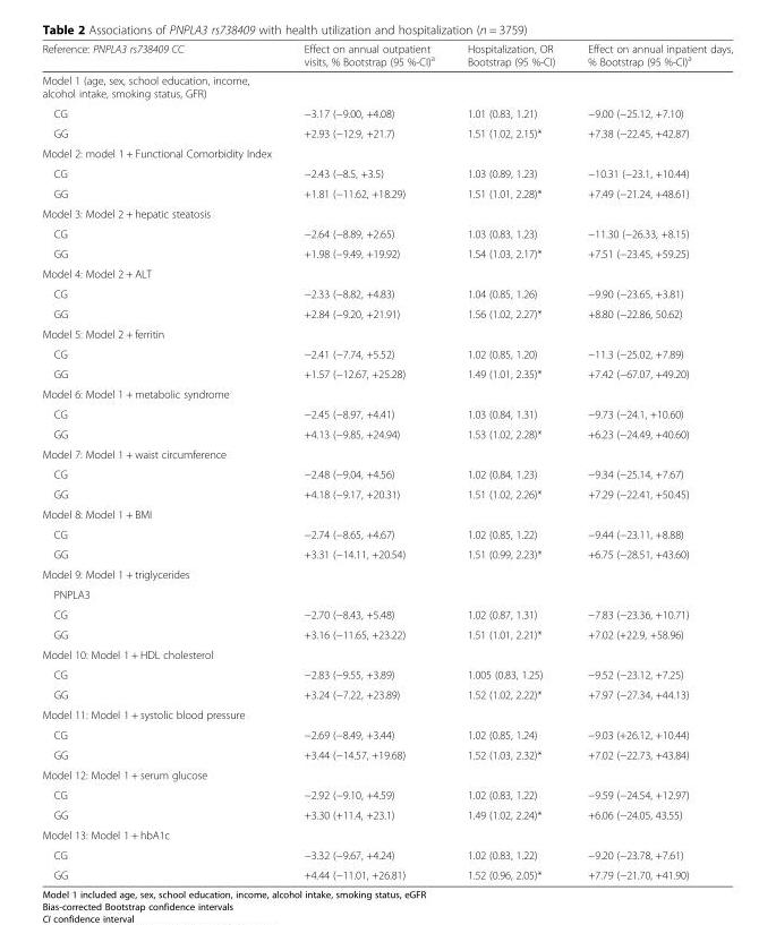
<table><thead><tr><td>Reference: PNPLA3 rs738409 CC</td><td>Effect on annual outpatient visits, % Bootstrap (95 %-CI)<sup>a</sup></td><td>Hospitalization, OR Bootstrap (95 %-CI)</td><td>Effect on annual inpatient days, % Bootstrap (95 %-CI)<sup>a</sup></td></tr></thead><tbody><tr><td colspan="4">Model 1 (age, sex, school education, income, alcohol intake, smoking status, GFR)</td></tr><tr><td>CG</td><td>−3.17 (−9.00, +4.08)</td><td>1.01 (0.83, 1.21)</td><td>−9.00 (−25.12, +7.10)</td></tr><tr><td>GG</td><td>+2.93 (−12.9, +21.7)</td><td>1.51 (1.02, 2.15)*</td><td>+7.38 (−22.45, +42.87)</td></tr><tr><td colspan="4">Model 2: model 1 + Functional Comorbidity Index</td></tr><tr><td>CG</td><td>−2.43 (−8.5, +3.5)</td><td>1.03 (0.89, 1.23)</td><td>−10.31 (−23.1, +10.44)</td></tr><tr><td>GG</td><td>+1.81 (−11.62, +18.29)</td><td>1.51 (1.01, 2.28)*</td><td>+7.49 (−21.24, +48.61)</td></tr><tr><td colspan="4">Model 3: Model 2 + hepatic steatosis</td></tr><tr><td>CG</td><td>−2.64 (−8.89, +2.65)</td><td>1.03 (0.83, 1.23)</td><td>−11.30 (−26.33, +8.15)</td></tr><tr><td>GG</td><td>+1.98 (−9.49, +19.92)</td><td>1.54 (1.03, 2.17)*</td><td>+7.51 (−23.45, +59.25)</td></tr><tr><td colspan="4">Model 4: Model 2 + ALT</td></tr><tr><td>CG</td><td>−2.33 (−8.82, +4.83)</td><td>1.04 (0.85, 1.26)</td><td>−9.90 (−23.65, +3.81)</td></tr><tr><td>GG</td><td>+2.84 (−9.20, +21.91)</td><td>1.56 (1.02, 2.27)*</td><td>+8.80 (−22.86, 50.62)</td></tr><tr><td colspan="4">Model 5: Model 2 + ferritin</td></tr><tr><td>CG</td><td>−2.41 (−7.74, +5.52)</td><td>1.02 (0.85, 1.20)</td><td>−11.3 (−25.02, +7.89)</td></tr><tr><td>GG</td><td>+1.57 (−12.67, +25.28)</td><td>1.49 (1.01, 2.35)*</td><td>+7.42 (−67.07, +49.20)</td></tr><tr><td colspan="4">Model 6: Model 1 + metabolic syndrome</td></tr><tr><td>CG</td><td>−2.45 (−8.97, +4.41)</td><td>1.03 (0.84, 1.31)</td><td>−9.73 (−24.1, +10.60)</td></tr><tr><td>GG</td><td>+4.13 (−9.85, +24.94)</td><td>1.53 (1.02, 2.28)*</td><td>+6.23 (−24.49, +40.60)</td></tr><tr><td colspan="4">Model 7: Model 1 + waist circumference</td></tr><tr><td>CG</td><td>−2.48 (−9.04, +4.56)</td><td>1.02 (0.84, 1.23)</td><td>−9.34 (−25.14, +7.67)</td></tr><tr><td>GG</td><td>+4.18 (−9.17, +20.31)</td><td>1.51 (1.02, 2.26)*</td><td>+7.29 (−22.41, +50.45)</td></tr><tr><td colspan="4">Model 8: Model 1 + BMI</td></tr><tr><td>CG</td><td>−2.74 (−8.65, +4.67)</td><td>1.02 (0.85, 1.22)</td><td>−9.44 (−23.11, +8.88)</td></tr><tr><td>GG</td><td>+3.31 (−14.11, +20.54)</td><td>1.51 (0.99, 2.23)*</td><td>+6.75 (−28.51, +43.60)</td></tr><tr><td colspan="4">Model 9: Model 1 + triglycerides</td></tr><tr><td colspan="4">PNPLA3</td></tr><tr><td>CG</td><td>−2.70 (−8.43, +5.48)</td><td>1.02 (0.87, 1.31)</td><td>−7.83 (−23.36, +10.71)</td></tr><tr><td>GG</td><td>+3.16 (−11.65, +23.22)</td><td>1.51 (1.01, 2.21)*</td><td>+7.02 (+22.9, +58.96)</td></tr><tr><td colspan="4">Model 10: Model 1 + HDL cholesterol</td></tr><tr><td>CG</td><td>−2.83 (−9.55, +3.89)</td><td>1.005 (0.83, 1.25)</td><td>−9.52 (−23.12, +7.25)</td></tr><tr><td>GG</td><td>+3.24 (−7.22, +23.89)</td><td>1.52 (1.02, 2.22)*</td><td>+7.97 (−27.34, +44.13)</td></tr><tr><td colspan="4">Model 11: Model 1 + systolic blood pressure</td></tr><tr><td>CG</td><td>−2.69 (−8.49, +3.44)</td><td>1.02 (0.85, 1.24)</td><td>−9.03 (+26.12, +10.44)</td></tr><tr><td>GG</td><td>+3.44 (−14.57, +19.68)</td><td>1.52 (1.03, 2.32)*</td><td>+7.02 (−22.73, +43.84)</td></tr><tr><td colspan="4">Model 12: Model 1 + serum glucose</td></tr><tr><td>CG</td><td>−2.92 (−9.10, +4.59)</td><td>1.02 (0.83, 1.22)</td><td>−9.59 (−24.54, +12.97)</td></tr><tr><td>GG</td><td>+3.30 (+11.4, +23.1)</td><td>1.49 (1.02, 2.24)*</td><td>+6.06 (−24.05, 43.55)</td></tr><tr><td colspan="4">Model 13: Model 1 + hbA1c</td></tr><tr><td>CG</td><td>−3.32 (−9.67, +4.24)</td><td>1.02 (0.83, 1.22)</td><td>−9.20 (−23.78, +7.61)</td></tr><tr><td>GG</td><td>+4.44 (−11.01, +26.81)</td><td>1.52 (0.96, 2.05)*</td><td>+7.79 (−21.70, +41.90)</td></tr></tbody></table>